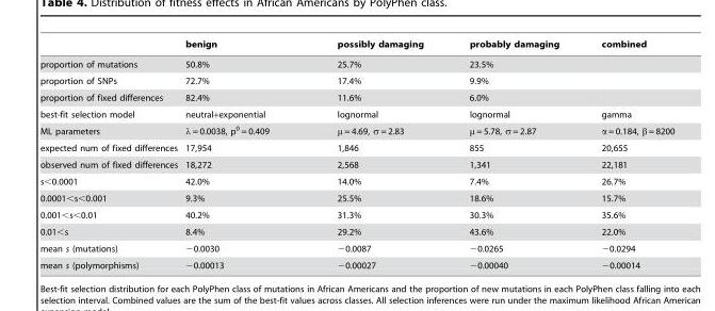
<table><thead><tr><td></td><td>benign</td><td>possibly damaging</td><td>probably damaging</td><td>combined</td></tr></thead><tbody><tr><td>proportion of mutations</td><td>50.8%</td><td>25.7%</td><td>23.5%</td><td></td></tr><tr><td>proportion of SNPs</td><td>72.7%</td><td>17.4%</td><td>9.9%</td><td></td></tr><tr><td>proportion of fixed differences</td><td>82.4%</td><td>11.6%</td><td>6.0%</td><td></td></tr><tr><td>best-fit selection model</td><td>neutral+exponential</td><td>lognormal</td><td>lognormal</td><td>gamma</td></tr><tr><td>ML parameters</td><td>λ = 0.0038, p<sup>0</sup> = 0.409</td><td>μ = 4.69, σ = 2.83</td><td>μ = 5.78, σ = 2.87</td><td>α = 0.184, β = 8200</td></tr><tr><td>expected num of fixed differences</td><td>17,954</td><td>1,846</td><td>855</td><td>20,655</td></tr><tr><td>observed num of fixed differences</td><td>18,272</td><td>2,568</td><td>1,341</td><td>22,181</td></tr><tr><td>s&lt;0.0001</td><td>42.0%</td><td>14.0%</td><td>7.4%</td><td>26.7%</td></tr><tr><td>0.0001&lt;s&lt;0.001</td><td>9.3%</td><td>25.5%</td><td>18.6%</td><td>15.7%</td></tr><tr><td>0.001&lt;s&lt;0.01</td><td>40.2%</td><td>31.3%</td><td>30.3%</td><td>35.6%</td></tr><tr><td>0.01&lt;s</td><td>8.4%</td><td>29.2%</td><td>43.6%</td><td>22.0%</td></tr><tr><td>mean s (mutations)</td><td>−0.0030</td><td>−0.0087</td><td>−0.0265</td><td>−0.0294</td></tr><tr><td>mean s (polymorphisms)</td><td>−0.00013</td><td>−0.00027</td><td>−0.00040</td><td>−0.00014</td></tr></tbody></table>